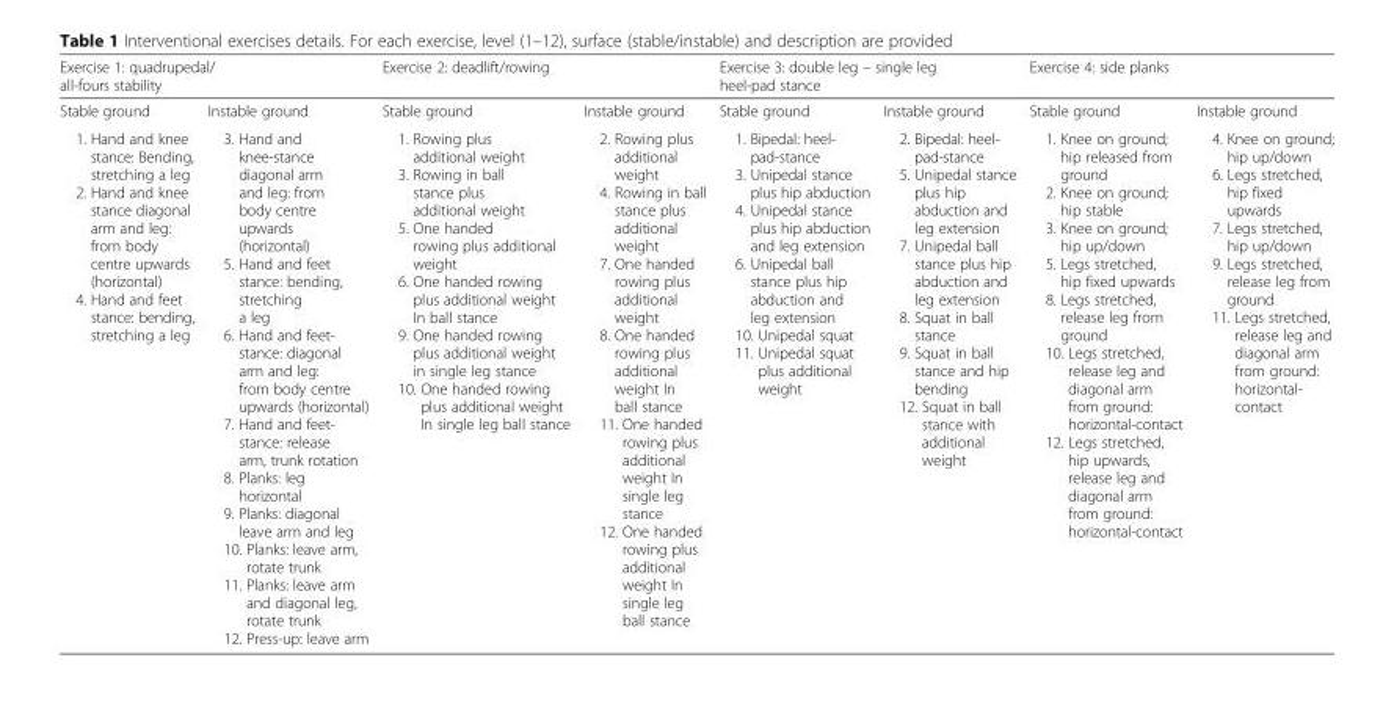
<table><thead><tr><td colspan="2">Exercise 1: quadrupedal/ all-fours stability</td><td colspan="2">Exercise 2: deadlift/rowing</td><td colspan="2">Exercise 3: double leg – single leg heel-pad stance</td><td colspan="2">Exercise 4: side planks</td></tr><tr><td>Stable ground</td><td>Instable ground</td><td>Stable ground</td><td>Instable ground</td><td>Stable ground</td><td>Instable ground</td><td>Stable ground</td><td>Instable ground</td></tr></thead><tbody><tr><td>1. Hand and knee stance: Bending, stretching a leg 2. Hand and knee stance diagonal arm and leg: from body centre upwards (horizontal) 4. Hand and feet stance: bending, stretching a leg</td><td>3. Hand and knee-stance diagonal arm and leg: from body centre upwards (horizontal) 5. Hand and feet stance: bending, stretching a leg 6. Hand and feet- stance: diagonal arm and leg: from body centre upwards (horizontal) 7. Hand and feet- stance: release arm, trunk rotation 8. Planks: leg horizontal 9. Planks: diagonal leave arm and leg 10. Planks: leave arm, rotate trunk 11. Planks: leave arm and diagonal leg, rotate trunk 12. Press-up: leave arm</td><td>1. Rowing plus additional weight 3. Rowing in ball stance plus additional weight 5. One handed rowing plus additional weight 6. One handed rowing plus additional weight In ball stance 9. One handed rowing plus additional weight in single leg stance 10. One handed rowing plus additional weight In single leg ball stance</td><td>2. Rowing plus additional weight 4. Rowing in ball stance plus additional weight 7. One handed rowing plus additional weight 8. One handed rowing plus additional weight In ball stance 11. One handed rowing plus additional weight In single leg stance 12. One handed rowing plus additional weight In single leg ball stance</td><td>1. Bipedal: heel- pad-stance 3. Unipedal stance plus hip abduction 4. Unipedal stance plus hip abduction and leg extension 6. Unipedal ball stance plus hip abduction and leg extension 10. Unipedal squat 11. Unipedal squat plus additional weight</td><td>2. Bipedal: heel- pad-stance 5. Unipedal stance plus hip abduction and leg extension 7. Unipedal ball stance plus hip abduction and leg extension 8. Squat in ball stance 9. Squat in ball stance and hip bending 12. Squat in ball stance with additional weight</td><td>1. Knee on ground; hip released from ground 2. Knee on ground; hip stable 3. Knee on ground; hip up/down 5. Legs stretched, hip fixed upwards 8. Legs stretched, release leg from ground 10. Legs stretched, release leg and diagonal arm from ground: horizontal-contact 12. Legs stretched, hip upwards, release leg and diagonal arm from ground: horizontal-contact</td><td>4. Knee on ground; hip up/down 6. Legs stretched, hip fixed upwards 7. Legs stretched, hip up/down 9. Legs stretched, release leg from ground 11. Legs stretched, release leg and diagonal arm from ground: horizontal- contact</td></tr></tbody></table>